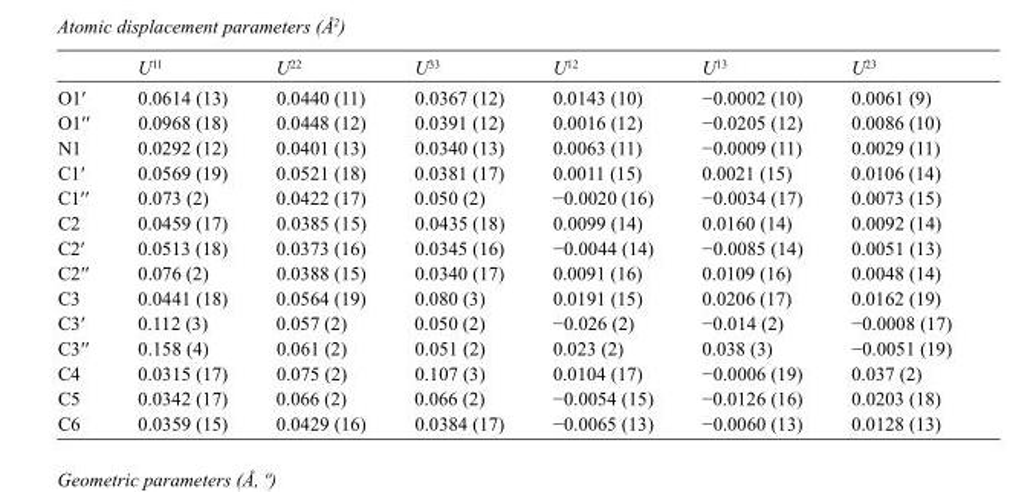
<table><thead><tr><td></td><td>U<sup>11</sup></td><td>U<sup>22</sup></td><td>U<sup>33</sup></td><td>U<sup>12</sup></td><td>U<sup>13</sup></td><td>U<sup>23</sup></td></tr></thead><tbody><tr><td>O1′</td><td>0.0614 (13)</td><td>0.0440 (11)</td><td>0.0367 (12)</td><td>0.0143 (10)</td><td>−0.0002 (10)</td><td>0.0061 (9)</td></tr><tr><td>O1′′</td><td>0.0968 (18)</td><td>0.0448 (12)</td><td>0.0391 (12)</td><td>0.0016 (12)</td><td>−0.0205 (12)</td><td>0.0086 (10)</td></tr><tr><td>N1</td><td>0.0292 (12)</td><td>0.0401 (13)</td><td>0.0340 (13)</td><td>0.0063 (11)</td><td>−0.0009 (11)</td><td>0.0029 (11)</td></tr><tr><td>C1′</td><td>0.0569 (19)</td><td>0.0521 (18)</td><td>0.0381 (17)</td><td>0.0011 (15)</td><td>0.0021 (15)</td><td>0.0106 (14)</td></tr><tr><td>C1′′</td><td>0.073 (2)</td><td>0.0422 (17)</td><td>0.050 (2)</td><td>−0.0020 (16)</td><td>−0.0034 (17)</td><td>0.0073 (15)</td></tr><tr><td>C2</td><td>0.0459 (17)</td><td>0.0385 (15)</td><td>0.0435 (18)</td><td>0.0099 (14)</td><td>0.0160 (14)</td><td>0.0092 (14)</td></tr><tr><td>C2′</td><td>0.0513 (18)</td><td>0.0373 (16)</td><td>0.0345 (16)</td><td>−0.0044 (14)</td><td>−0.0085 (14)</td><td>0.0051 (13)</td></tr><tr><td>C2′′</td><td>0.076 (2)</td><td>0.0388 (15)</td><td>0.0340 (17)</td><td>0.0091 (16)</td><td>0.0109 (16)</td><td>0.0048 (14)</td></tr><tr><td>C3</td><td>0.0441 (18)</td><td>0.0564 (19)</td><td>0.080 (3)</td><td>0.0191 (15)</td><td>0.0206 (17)</td><td>0.0162 (19)</td></tr><tr><td>C3′</td><td>0.112 (3)</td><td>0.057 (2)</td><td>0.050 (2)</td><td>−0.026 (2)</td><td>−0.014 (2)</td><td>−0.0008 (17)</td></tr><tr><td>C3′′</td><td>0.158 (4)</td><td>0.061 (2)</td><td>0.051 (2)</td><td>0.023 (2)</td><td>0.038 (3)</td><td>−0.0051 (19)</td></tr><tr><td>C4</td><td>0.0315 (17)</td><td>0.075 (2)</td><td>0.107 (3)</td><td>0.0104 (17)</td><td>−0.0006 (19)</td><td>0.037 (2)</td></tr><tr><td>C5</td><td>0.0342 (17)</td><td>0.066 (2)</td><td>0.066 (2)</td><td>−0.0054 (15)</td><td>−0.0126 (16)</td><td>0.0203 (18)</td></tr><tr><td>C6</td><td>0.0359 (15)</td><td>0.0429 (16)</td><td>0.0384 (17)</td><td>−0.0065 (13)</td><td>−0.0060 (13)</td><td>0.0128 (13)</td></tr></tbody></table>